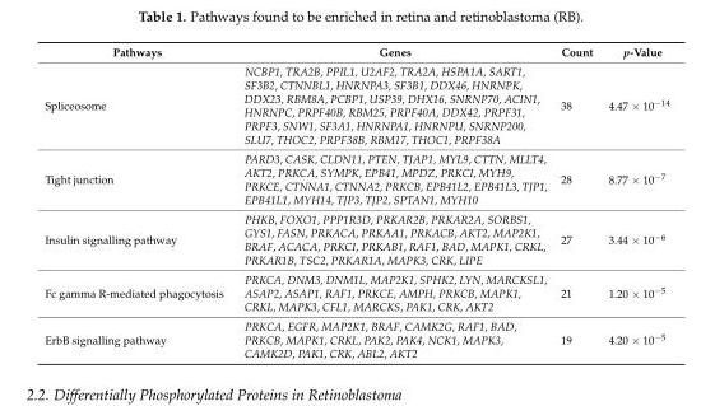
<table><thead><tr><td>Pathways</td><td>Genes</td><td>Count</td><td>p-Value</td></tr></thead><tbody><tr><td>Spliceosome</td><td>NCBP1, TRA2B, PPIL1, U2AF2, TRA2A, HSPA1A, SART1, SF3B2, CTNNBL1, HNRNPA3, SF3B1, DDX46, HNRNPK, DDX23, RBM8A, PCBP1, USP39, DHX16, SNRNP70, ACIN1, HNRNPC, PRPF40B, RBM25, PRPF40A, DDX42, PRPF31, PRPF3, SNW1, SF3A1, HNRNPA1, HNRNPU, SNRNP200, SLU7, THOC2, PRPF38B, RBM17, THOC1, PRPF38A</td><td>38</td><td>4.47 × 10<sup>−14</sup></td></tr><tr><td>Tight junction</td><td>PARD3, CASK, CLDN11, PTEN, TJAP1, MYL9, CTTN, MLLT4, AKT2, PRKCA, SYMPK, EPB41, MPDZ, PRKCI, MYH9, PRKCE, CTNNA1, CTNNA2, PRKCB, EPB41L2, EPB41L3, TJP1, EPB41L1, MYH14, TJP3, TJP2, SPTAN1, MYH10</td><td>28</td><td>8.77 × 10<sup>−7</sup></td></tr><tr><td>Insulin signalling pathway</td><td>PHKB, FOXO1, PPP1R3D, PRKAR2B, PRKAR2A, SORBS1, GYS1, FASN, PRKACA, PRKAA1, PRKACB, AKT2, MAP2K1, BRAF, ACACA, PRKCI, PRKAB1, RAF1, BAD, MAPK1, CRKL, PRKAR1B, TSC2, PRKAR1A, MAPK3, CRK, LIPE</td><td>27</td><td>3.44 × 10<sup>−6</sup></td></tr><tr><td>Fc gamma R-mediated phagocytosis</td><td>PRKCA, DNM3, DNM1L, MAP2K1, SPHK2, LYN, MARCKSL1, ASAP2, ASAP1, RAF1, PRKCE, AMPH, PRKCB, MAPK1, CRKL, MAPK3, CFL1, MARCKS, PAK1, CRK, AKT2</td><td>21</td><td>1.20 × 10<sup>−5</sup></td></tr><tr><td>ErbB signalling pathway</td><td>PRKCA, EGFR, MAP2K1, BRAF, CAMK2G, RAF1, BAD, PRKCB, MAPK1, CRKL, PAK2, PAK4, NCK1, MAPK3, CAMK2D, PAK1, CRK, ABL2, AKT2</td><td>19</td><td>4.20 × 10<sup>−5</sup></td></tr></tbody></table>